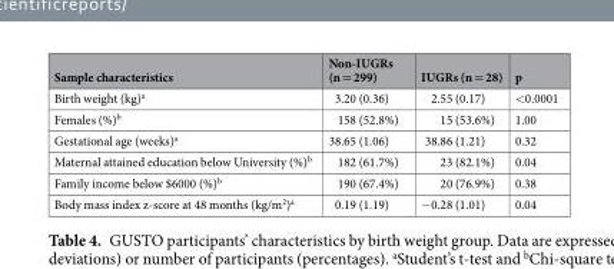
<table><thead><tr><td>Sample characteristics</td><td>Non-IUGRs (n = 299)</td><td>IUGRs (n = 28)</td><td>p</td></tr></thead><tbody><tr><td>Birth weight (kg)<sup>a</sup></td><td>3.20 (0.36)</td><td>2.55 (0.17)</td><td>&lt;0.0001</td></tr><tr><td>Females (%)<sup>b</sup></td><td>158 (52.8%)</td><td>15 (53.6%)</td><td>1.00</td></tr><tr><td>Gestational age (weeks)<sup>a</sup></td><td>38.65 (1.06)</td><td>38.86 (1.21)</td><td>0.32</td></tr><tr><td>Maternal attained education below University (%)<sup>b</sup></td><td>182 (61.7%)</td><td>23 (82.1%)</td><td>0.04</td></tr><tr><td>Family income below $6000 (%)<sup>b</sup></td><td>190 (67.4%)</td><td>20 (76.9%)</td><td>0.38</td></tr><tr><td>Body mass index z-score at 48 months (kg/m<sup>2</sup>)<sup>a</sup></td><td>0.19 (1.19)</td><td>−0.28 (1.01)</td><td>0.04</td></tr></tbody></table>